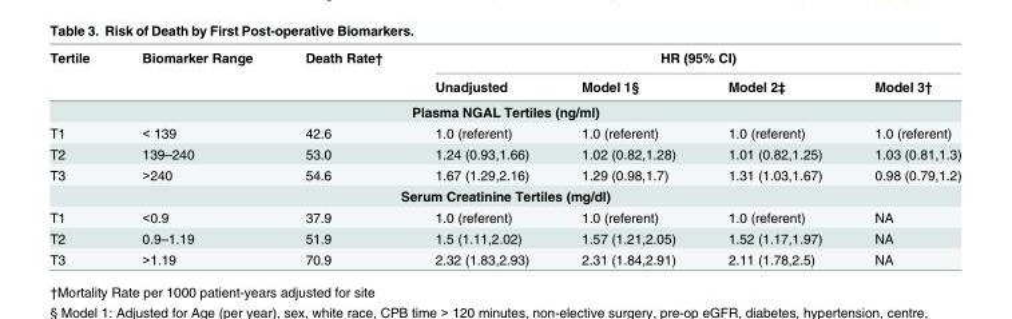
<table><thead><tr><td rowspan="2">Tertile</td><td rowspan="2">Biomarker Range</td><td rowspan="2">Death Rate†</td><td colspan="4">HR (95% CI)</td></tr><tr><td>Unadjusted</td><td>Model 1§</td><td>Model 2‡</td><td>Model 3†</td></tr></thead><tbody><tr><td colspan="7">Plasma NGAL Tertiles (ng/ml)</td></tr><tr><td>T1</td><td>&lt; 139</td><td>42.6</td><td>1.0 (referent)</td><td>1.0 (referent)</td><td>1.0 (referent)</td><td>1.0 (referent)</td></tr><tr><td>T2</td><td>139–240</td><td>53.0</td><td>1.24 (0.93,1.66)</td><td>1.02 (0.82,1.28)</td><td>1.01 (0.82,1.25)</td><td>1.03 (0.81,1.3)</td></tr><tr><td>T3</td><td>&gt;240</td><td>54.6</td><td>1.67 (1.29,2.16)</td><td>1.29 (0.98,1.7)</td><td>1.31 (1.03,1.67)</td><td>0.98 (0.79,1.2)</td></tr><tr><td colspan="7">Serum Creatinine Tertiles (mg/dl)</td></tr><tr><td>T1</td><td>&lt;0.9</td><td>37.9</td><td>1.0 (referent)</td><td>1.0 (referent)</td><td>1.0 (referent)</td><td>NA</td></tr><tr><td>T2</td><td>0.9–1.19</td><td>51.9</td><td>1.5 (1.11,2.02)</td><td>1.57 (1.21,2.05)</td><td>1.52 (1.17,1.97)</td><td>NA</td></tr><tr><td>T3</td><td>&gt;1.19</td><td>70.9</td><td>2.32 (1.83,2.93)</td><td>2.31 (1.84,2.91)</td><td>2.11 (1.78,2.5)</td><td>NA</td></tr></tbody></table>